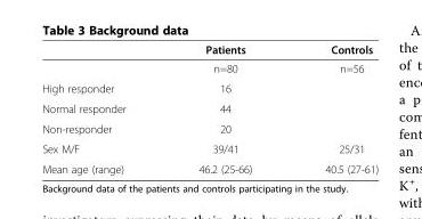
<table><thead><tr><td></td><td>Patients</td><td>Controls</td></tr></thead><tbody><tr><td></td><td>n=80</td><td>n=56</td></tr><tr><td>High responder</td><td>16</td><td></td></tr><tr><td>Normal responder</td><td>44</td><td></td></tr><tr><td>Non-responder</td><td>20</td><td></td></tr><tr><td>Sex M/F</td><td>39/41</td><td>25/31</td></tr><tr><td>Mean age (range)</td><td>46.2 (25-66)</td><td>40.5 (27-61)</td></tr></tbody></table>